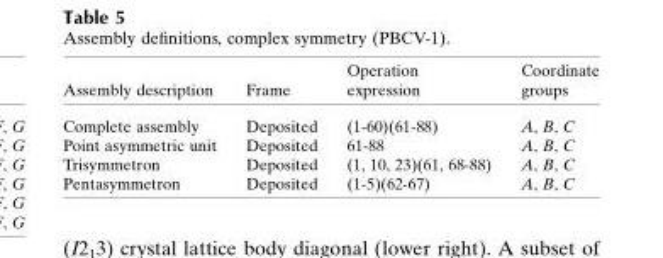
<table><thead><tr><td>Assembly description</td><td>Frame</td><td>Operation expression</td><td>Coordinate groups</td></tr></thead><tbody><tr><td>Complete assembly</td><td>Deposited</td><td>(1-60)(61-88)</td><td>A, B, C</td></tr><tr><td>Point asymmetric unit</td><td>Deposited</td><td>61-88</td><td>A, B, C</td></tr><tr><td>Trisymmetron</td><td>Deposited</td><td>(1, 10, 23)(61, 68-88)</td><td>A, B, C</td></tr><tr><td>Pentasymmetron</td><td>Deposited</td><td>(1-5)(62-67)</td><td>A, B, C</td></tr></tbody></table>